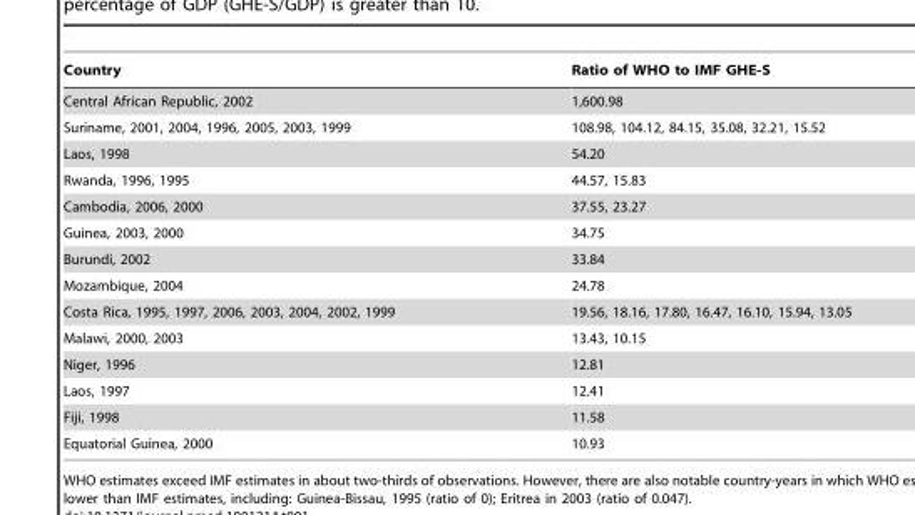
<table><thead><tr><td>Country</td><td>Ratio of WHO to IMF GHE-S</td></tr></thead><tbody><tr><td>Central African Republic, 2002</td><td>1,600.98</td></tr><tr><td>Suriname, 2001, 2004, 1996, 2005, 2003, 1999</td><td>108.98, 104.12, 84.15, 35.08, 32.21, 15.52</td></tr><tr><td>Laos, 1998</td><td>54.20</td></tr><tr><td>Rwanda, 1996, 1995</td><td>44.57, 15.83</td></tr><tr><td>Cambodia, 2006, 2000</td><td>37.55, 23.27</td></tr><tr><td>Guinea, 2003, 2000</td><td>34.75</td></tr><tr><td>Burundi, 2002</td><td>33.84</td></tr><tr><td>Mozambique, 2004</td><td>24.78</td></tr><tr><td>Costa Rica, 1995, 1997, 2006, 2003, 2004, 2002, 1999</td><td>19.56, 18.16, 17.80, 16.47, 16.10, 15.94, 13.05</td></tr><tr><td>Malawi, 2000, 2003</td><td>13.43, 10.15</td></tr><tr><td>Niger, 1996</td><td>12.81</td></tr><tr><td>Laos, 1997</td><td>12.41</td></tr><tr><td>Fiji, 1998</td><td>11.58</td></tr><tr><td>Equatorial Guinea, 2000</td><td>10.93</td></tr></tbody></table>